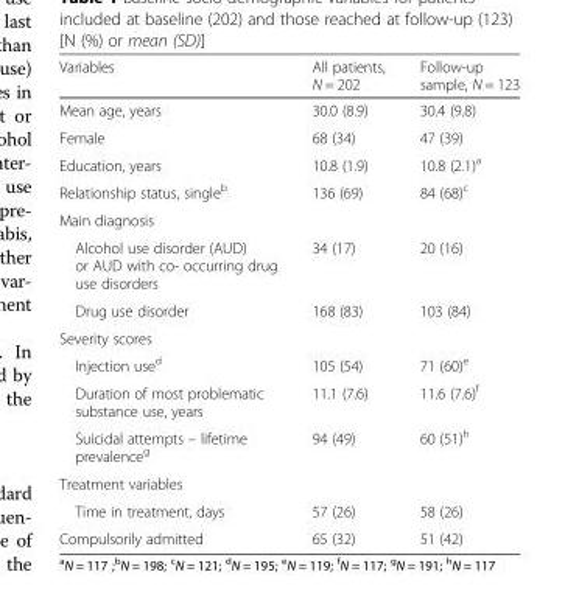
<table><thead><tr><td>Variables</td><td>All patients, N = 202</td><td>Follow-up sample, N = 123</td></tr></thead><tbody><tr><td>Mean age, years</td><td>30.0 (8.9)</td><td>30.4 (9.8)</td></tr><tr><td>Female</td><td>68 (34)</td><td>47 (39)</td></tr><tr><td>Education, years</td><td>10.8 (1.9)</td><td>10.8 (2.1)<sup>a</sup></td></tr><tr><td>Relationship status, single<sup>b</sup></td><td>136 (69)</td><td>84 (68)<sup>c</sup></td></tr><tr><td colspan="3">Main diagnosis</td></tr><tr><td>Alcohol use disorder (AUD) or AUD with co- occurring drug use disorders</td><td>34 (17)</td><td>20 (16)</td></tr><tr><td>Drug use disorder</td><td>168 (83)</td><td>103 (84)</td></tr><tr><td colspan="3">Severity scores</td></tr><tr><td>Injection use<sup>d</sup></td><td>105 (54)</td><td>71 (60)<sup>e</sup></td></tr><tr><td>Duration of most problematic substance use, years</td><td>11.1 (7.6)</td><td>11.6 (7.6)<sup>f</sup></td></tr><tr><td>Suicidal attempts – lifetime prevalence<sup>g</sup></td><td>94 (49)</td><td>60 (51)<sup>h</sup></td></tr><tr><td colspan="3">Treatment variables</td></tr><tr><td>Time in treatment, days</td><td>57 (26)</td><td>58 (26)</td></tr><tr><td>Compulsorily admitted</td><td>65 (32)</td><td>51 (42)</td></tr></tbody></table>